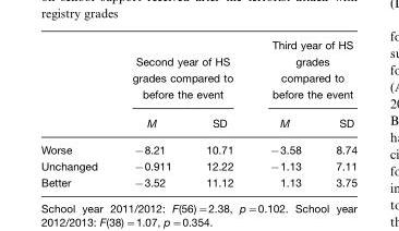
<table><thead><tr><td rowspan="2"></td><td colspan="2">Second year of HS grades compared to before the event</td><td colspan="2">Third year of HS grades compared to before the event</td></tr><tr><td>M</td><td>SD</td><td>M</td><td>SD</td></tr></thead><tbody><tr><td>Worse</td><td>−8.21</td><td>10.71</td><td>−3.58</td><td>8.74</td></tr><tr><td>Unchanged</td><td>−0.911</td><td>12.22</td><td>−1.13</td><td>7.11</td></tr><tr><td>Better</td><td>−3.52</td><td>11.12</td><td>1.13</td><td>3.75</td></tr></tbody></table>